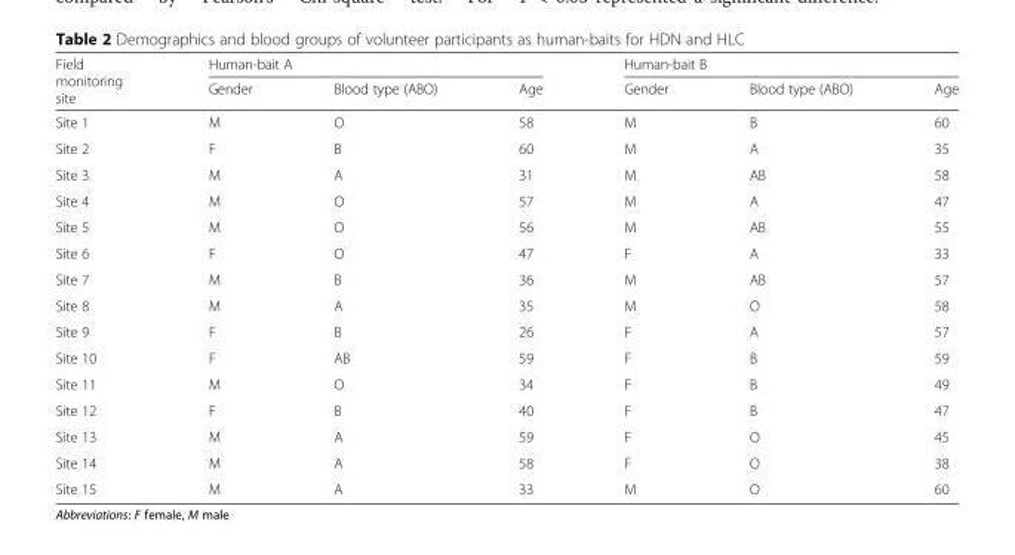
<table><thead><tr><td rowspan="2">Field monitoring site</td><td colspan="3">Human-bait A</td><td colspan="3">Human-bait B</td></tr><tr><td>Gender</td><td>Blood type (ABO)</td><td>Age</td><td>Gender</td><td>Blood type (ABO)</td><td>Age</td></tr></thead><tbody><tr><td>Site 1</td><td>M</td><td>O</td><td>58</td><td>M</td><td>B</td><td>60</td></tr><tr><td>Site 2</td><td>F</td><td>B</td><td>60</td><td>M</td><td>A</td><td>35</td></tr><tr><td>Site 3</td><td>M</td><td>A</td><td>31</td><td>M</td><td>AB</td><td>58</td></tr><tr><td>Site 4</td><td>M</td><td>O</td><td>57</td><td>M</td><td>A</td><td>47</td></tr><tr><td>Site 5</td><td>M</td><td>O</td><td>56</td><td>M</td><td>AB</td><td>55</td></tr><tr><td>Site 6</td><td>F</td><td>O</td><td>47</td><td>F</td><td>A</td><td>33</td></tr><tr><td>Site 7</td><td>M</td><td>B</td><td>36</td><td>M</td><td>AB</td><td>57</td></tr><tr><td>Site 8</td><td>M</td><td>A</td><td>35</td><td>M</td><td>O</td><td>58</td></tr><tr><td>Site 9</td><td>F</td><td>B</td><td>26</td><td>F</td><td>A</td><td>57</td></tr><tr><td>Site 10</td><td>F</td><td>AB</td><td>59</td><td>F</td><td>B</td><td>59</td></tr><tr><td>Site 11</td><td>M</td><td>O</td><td>34</td><td>F</td><td>B</td><td>49</td></tr><tr><td>Site 12</td><td>F</td><td>B</td><td>40</td><td>F</td><td>B</td><td>47</td></tr><tr><td>Site 13</td><td>M</td><td>A</td><td>59</td><td>F</td><td>O</td><td>45</td></tr><tr><td>Site 14</td><td>M</td><td>A</td><td>58</td><td>F</td><td>O</td><td>38</td></tr><tr><td>Site 15</td><td>M</td><td>A</td><td>33</td><td>M</td><td>O</td><td>60</td></tr></tbody></table>